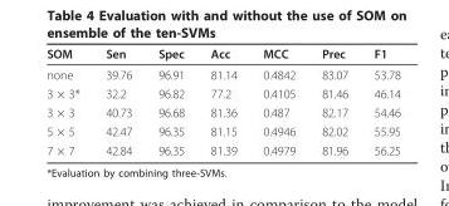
<table><thead><tr><td>SOM</td><td>Sen</td><td>Spec</td><td>Acc</td><td>MCC</td><td>Prec</td><td>F1</td></tr></thead><tbody><tr><td>none</td><td>39.76</td><td>96.91</td><td>81.14</td><td>0.4842</td><td>83.07</td><td>53.78</td></tr><tr><td>3 × 3*</td><td>32.2</td><td>96.82</td><td>77.2</td><td>0.4105</td><td>81.46</td><td>46.14</td></tr><tr><td>3 × 3</td><td>40.73</td><td>96.68</td><td>81.36</td><td>0.487</td><td>82.17</td><td>54.46</td></tr><tr><td>5 × 5</td><td>42.47</td><td>96.35</td><td>81.15</td><td>0.4946</td><td>82.02</td><td>55.95</td></tr><tr><td>7 × 7</td><td>42.84</td><td>96.35</td><td>81.39</td><td>0.4979</td><td>81.96</td><td>56.25</td></tr></tbody></table>